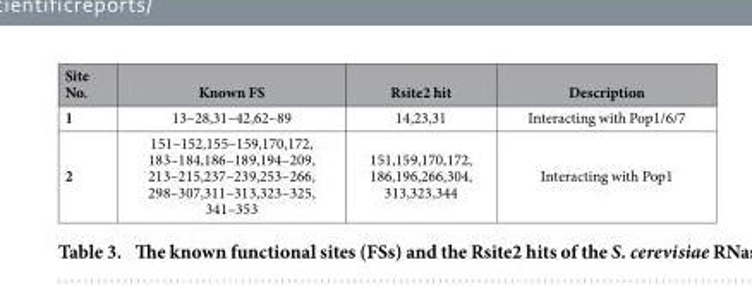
<table><thead><tr><td>Site No.</td><td>Known FS</td><td>Rsite2 hit</td><td>Description</td></tr></thead><tbody><tr><td>1</td><td>13–28,31–42,62–89</td><td>14,23,31</td><td>Interacting with Pop1/6/7</td></tr><tr><td>2</td><td>151–152,155–159,170,172, 183–184,186–189,194–209, 213–215,237–239,253–266, 298–307,311–313,323–325, 341–353</td><td>151,159,170,172, 186,196,266,304, 313,323,344</td><td>Interacting with Pop1</td></tr></tbody></table>